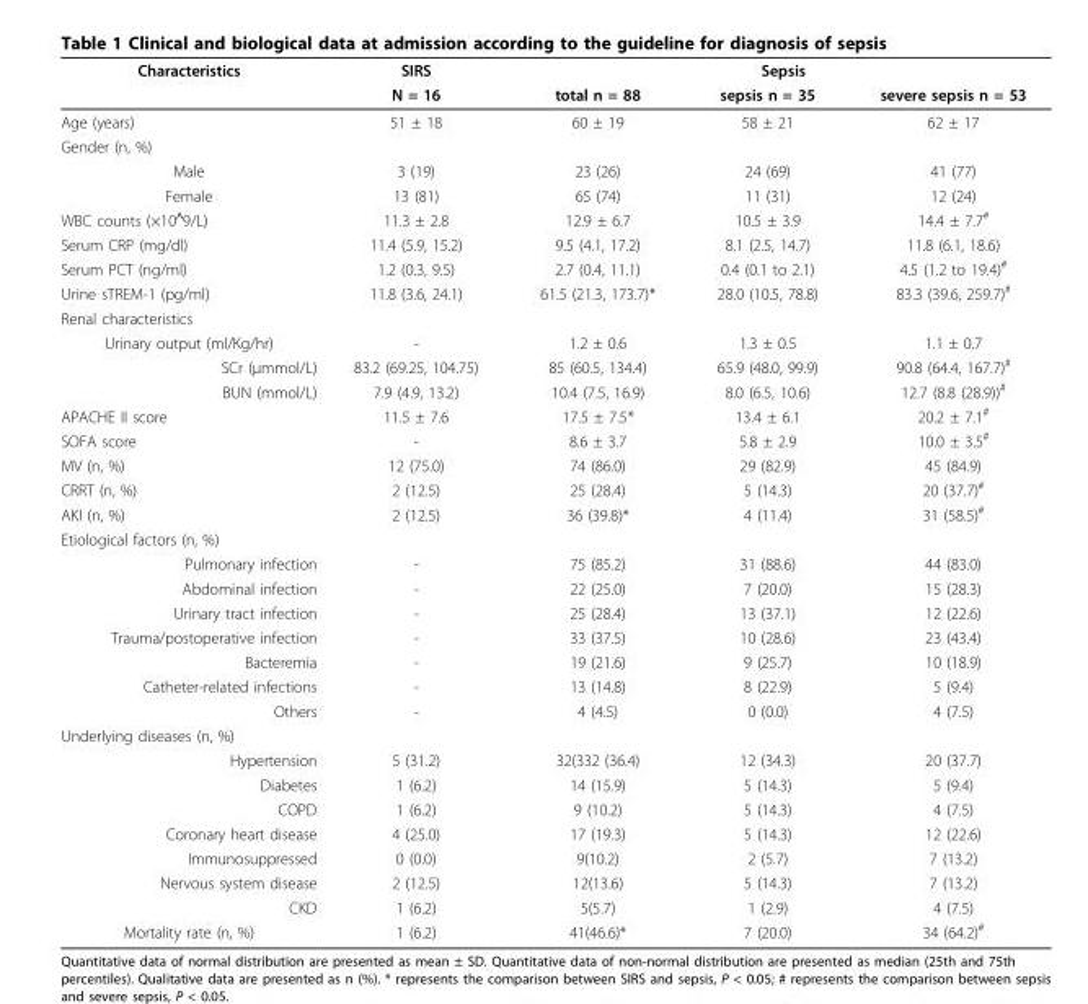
<table><thead><tr><td rowspan="2">Characteristics</td><td rowspan="2">SIRS N = 16</td><td colspan="3">Sepsis</td></tr><tr><td>total n = 88</td><td>sepsis n = 35</td><td>severe sepsis n = 53</td></tr></thead><tbody><tr><td>Age (years)</td><td>51 ± 18</td><td>60 ± 19</td><td>58 ± 21</td><td>62 ± 17</td></tr><tr><td colspan="5">Gender (n, %)</td></tr><tr><td>Male</td><td>3 (19)</td><td>23 (26)</td><td>24 (69)</td><td>41 (77)</td></tr><tr><td>Female</td><td>13 (81)</td><td>65 (74)</td><td>11 (31)</td><td>12 (24)</td></tr><tr><td>WBC counts (×10<sup>∧</sup>9/L)</td><td>11.3 ± 2.8</td><td>12.9 ± 6.7</td><td>10.5 ± 3.9</td><td>14.4 ± 7.7<sup>#</sup></td></tr><tr><td>Serum CRP (mg/dl)</td><td>11.4 (5.9, 15.2)</td><td>9.5 (4.1, 17.2)</td><td>8.1 (2.5, 14.7)</td><td>11.8 (6.1, 18.6)</td></tr><tr><td>Serum PCT (ng/ml)</td><td>1.2 (0.3, 9.5)</td><td>2.7 (0.4, 11.1)</td><td>0.4 (0.1 to 2.1)</td><td>4.5 (1.2 to 19.4)<sup>#</sup></td></tr><tr><td>Urine sTREM-1 (pg/ml)</td><td>11.8 (3.6, 24.1)</td><td>61.5 (21.3, 173.7)*</td><td>28.0 (10.5, 78.8)</td><td>83.3 (39.6, 259.7)<sup>#</sup></td></tr><tr><td colspan="5">Renal characteristics</td></tr><tr><td>Urinary output (ml/Kg/hr)</td><td>-</td><td>1.2 ± 0.6</td><td>1.3 ± 0.5</td><td>1.1 ± 0.7</td></tr><tr><td>SCr (μmmol/L)</td><td>83.2 (69.25, 104.75)</td><td>85 (60.5, 134.4)</td><td>65.9 (48.0, 99.9)</td><td>90.8 (64.4, 167.7)<sup>#</sup></td></tr><tr><td>BUN (mmol/L)</td><td>7.9 (4.9, 13.2)</td><td>10.4 (7.5, 16.9)</td><td>8.0 (6.5, 10.6)</td><td>12.7 (8.8 (28.9))<sup>#</sup></td></tr><tr><td>APACHE II score</td><td>11.5 ± 7.6</td><td>17.5 ± 7.5*</td><td>13.4 ± 6.1</td><td>20.2 ± 7.1<sup>#</sup></td></tr><tr><td>SOFA score</td><td>-</td><td>8.6 ± 3.7</td><td>5.8 ± 2.9</td><td>10.0 ± 3.5<sup>#</sup></td></tr><tr><td>MV (n, %)</td><td>12 (75.0)</td><td>74 (86.0)</td><td>29 (82.9)</td><td>45 (84.9)</td></tr><tr><td>CRRT (n, %)</td><td>2 (12.5)</td><td>25 (28.4)</td><td>5 (14.3)</td><td>20 (37.7)<sup>#</sup></td></tr><tr><td>AKI (n, %)</td><td>2 (12.5)</td><td>36 (39.8)*</td><td>4 (11.4)</td><td>31 (58.5)<sup>#</sup></td></tr><tr><td colspan="5">Etiological factors (n, %)</td></tr><tr><td>Pulmonary infection</td><td>-</td><td>75 (85.2)</td><td>31 (88.6)</td><td>44 (83.0)</td></tr><tr><td>Abdominal infection</td><td>-</td><td>22 (25.0)</td><td>7 (20.0)</td><td>15 (28.3)</td></tr><tr><td>Urinary tract infection</td><td>-</td><td>25 (28.4)</td><td>13 (37.1)</td><td>12 (22.6)</td></tr><tr><td>Trauma/postoperative infection</td><td>-</td><td>33 (37.5)</td><td>10 (28.6)</td><td>23 (43.4)</td></tr><tr><td>Bacteremia</td><td>-</td><td>19 (21.6)</td><td>9 (25.7)</td><td>10 (18.9)</td></tr><tr><td>Catheter-related infections</td><td>-</td><td>13 (14.8)</td><td>8 (22.9)</td><td>5 (9.4)</td></tr><tr><td>Others</td><td>-</td><td>4 (4.5)</td><td>0 (0.0)</td><td>4 (7.5)</td></tr><tr><td colspan="5">Underlying diseases (n, %)</td></tr><tr><td>Hypertension</td><td>5 (31.2)</td><td>32(332 (36.4)</td><td>12 (34.3)</td><td>20 (37.7)</td></tr><tr><td>Diabetes</td><td>1 (6.2)</td><td>14 (15.9)</td><td>5 (14.3)</td><td>5 (9.4)</td></tr><tr><td>COPD</td><td>1 (6.2)</td><td>9 (10.2)</td><td>5 (14.3)</td><td>4 (7.5)</td></tr><tr><td>Coronary heart disease</td><td>4 (25.0)</td><td>17 (19.3)</td><td>5 (14.3)</td><td>12 (22.6)</td></tr><tr><td>Immunosuppressed</td><td>0 (0.0)</td><td>9(10.2)</td><td>2 (5.7)</td><td>7 (13.2)</td></tr><tr><td>Nervous system disease</td><td>2 (12.5)</td><td>12(13.6)</td><td>5 (14.3)</td><td>7 (13.2)</td></tr><tr><td>CKD</td><td>1 (6.2)</td><td>5(5.7)</td><td>1 (2.9)</td><td>4 (7.5)</td></tr><tr><td>Mortality rate (n, %)</td><td>1 (6.2)</td><td>41(46.6)*</td><td>7 (20.0)</td><td>34 (64.2)<sup>#</sup></td></tr></tbody></table>